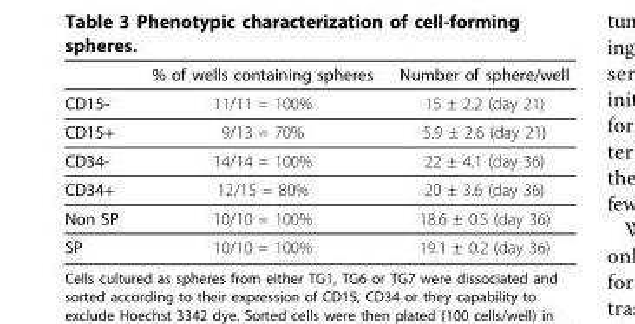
<table><thead><tr><td></td><td>% of wells containing spheres</td><td>Number of sphere/well</td></tr></thead><tbody><tr><td>CD15-</td><td>11/11 = 100%</td><td>15 ± 2.2 (day 21)</td></tr><tr><td>CD15+</td><td>9/13 = 70%</td><td>5.9 ± 2.6 (day 21)</td></tr><tr><td>CD34-</td><td>14/14 = 100%</td><td>22 ± 4.1 (day 36)</td></tr><tr><td>CD34+</td><td>12/15 = 80%</td><td>20 ± 3.6 (day 36)</td></tr><tr><td>Non SP</td><td>10/10 = 100%</td><td>18.6 ± 0.5 (day 36)</td></tr><tr><td>SP</td><td>10/10 = 100%</td><td>19.1 ± 0.2 (day 36)</td></tr></tbody></table>